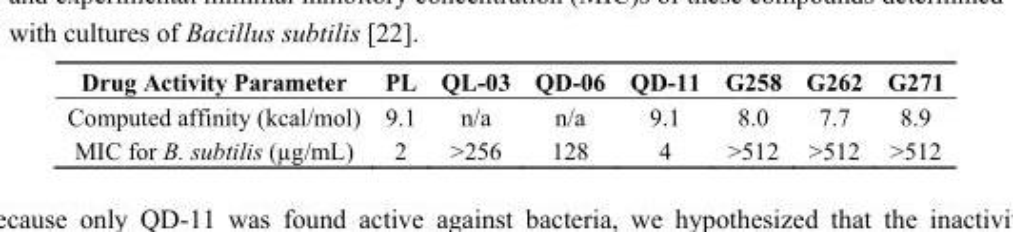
<table><thead><tr><td>Drug Activity Parameter</td><td>PL</td><td>QL-03</td><td>QD-06</td><td>QD-11</td><td>G258</td><td>G262</td><td>G271</td></tr></thead><tbody><tr><td>Computed affinity (kcal/mol)</td><td>9.1</td><td>n/a</td><td>n/a</td><td>9.1</td><td>8.0</td><td>7.7</td><td>8.9</td></tr><tr><td>MIC for B. subtilis (µg/mL)</td><td>2</td><td>&gt;256</td><td>128</td><td>4</td><td>&gt;512</td><td>&gt;512</td><td>&gt;512</td></tr></tbody></table>